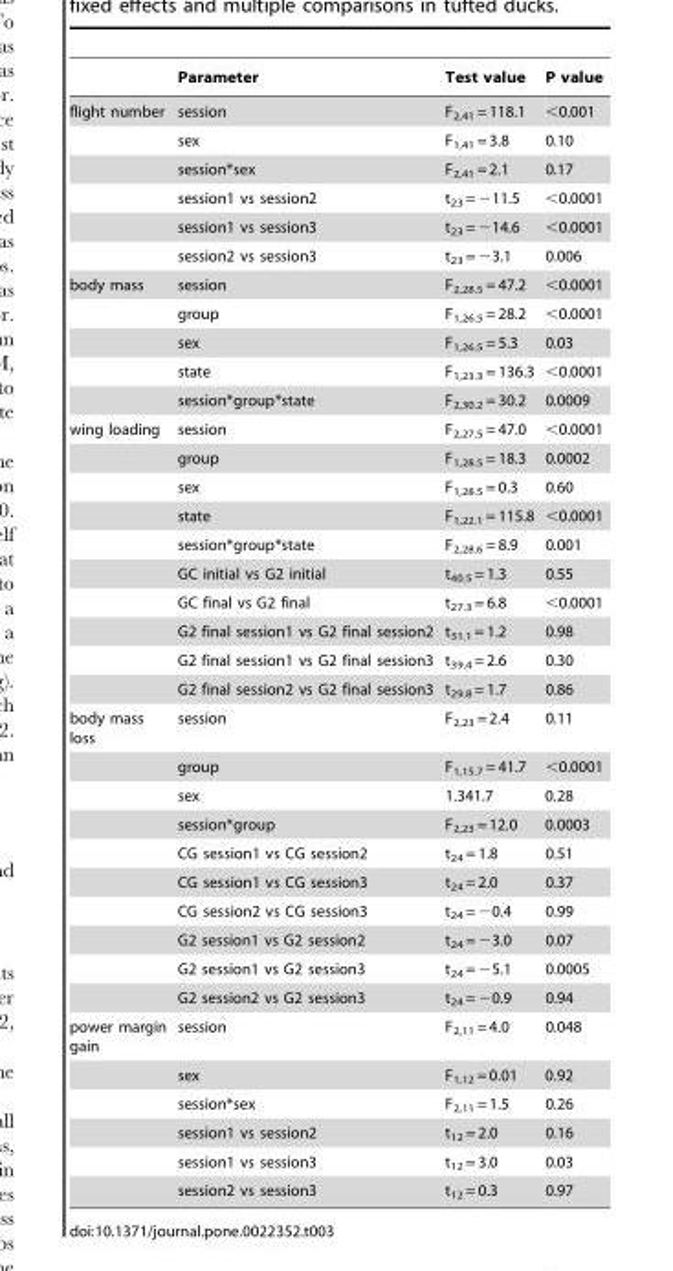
<table><thead><tr><td></td><td>Parameter</td><td>Test value</td><td>P value</td></tr></thead><tbody><tr><td rowspan="6">flight number</td><td>session</td><td>F<sub>2,41</sub> = 118.1</td><td>&lt;0.001</td></tr><tr><td>sex</td><td>F<sub>1,41</sub> = 3.8</td><td>0.10</td></tr><tr><td>session*sex</td><td>F<sub>2,41</sub> = 2.1</td><td>0.17</td></tr><tr><td>session1 vs session2</td><td>t<sub>23</sub> = −11.5</td><td>&lt;0.0001</td></tr><tr><td>session1 vs session3</td><td>t<sub>23</sub> = −14.6</td><td>&lt;0.0001</td></tr><tr><td>session2 vs session3</td><td>t<sub>23</sub> = −3.1</td><td>0.006</td></tr><tr><td rowspan="5">body mass</td><td>session</td><td>F<sub>2,28.5</sub> = 47.2</td><td>&lt;0.0001</td></tr><tr><td>group</td><td>F<sub>1,26.5</sub> = 28.2</td><td>&lt;0.0001</td></tr><tr><td>sex</td><td>F<sub>1,26.5</sub> = 5.3</td><td>0.03</td></tr><tr><td>state</td><td>F<sub>1,23.3</sub> = 136.3</td><td>&lt;0.0001</td></tr><tr><td>session*group*state</td><td>F<sub>2,30.2</sub> = 30.2</td><td>0.0009</td></tr><tr><td rowspan="10">wing loading</td><td>session</td><td>F<sub>2,27.5</sub> = 47.0</td><td>&lt;0.0001</td></tr><tr><td>group</td><td>F<sub>1,28.5</sub> = 18.3</td><td>0.0002</td></tr><tr><td>sex</td><td>F<sub>1,28.5</sub> = 0.3</td><td>0.60</td></tr><tr><td>state</td><td>F<sub>1,22.1</sub> = 115.8</td><td>&lt;0.0001</td></tr><tr><td>session*group*state</td><td>F<sub>2,28.6</sub> = 8.9</td><td>0.001</td></tr><tr><td>GC initial vs G2 initial</td><td>t<sub>40.5</sub> = 1.3</td><td>0.55</td></tr><tr><td>GC final vs G2 final</td><td>t<sub>27.3</sub> = 6.8</td><td>&lt;0.0001</td></tr><tr><td>G2 final session1 vs G2 final session2</td><td>t<sub>31.1</sub> = 1.2</td><td>0.98</td></tr><tr><td>G2 final session1 vs G2 final session3</td><td>t<sub>39.4</sub> = 2.6</td><td>0.30</td></tr><tr><td>G2 final session2 vs G2 final session3</td><td>t<sub>29.8</sub> = 1.7</td><td>0.86</td></tr><tr><td rowspan="10">body mass loss</td><td>session</td><td>F<sub>2,23</sub> = 2.4</td><td>0.11</td></tr><tr><td>group</td><td>F<sub>1,15.7</sub> = 41.7</td><td>&lt;0.0001</td></tr><tr><td>sex</td><td>1.341.7</td><td>0.28</td></tr><tr><td>session*group</td><td>F<sub>2,23</sub> = 12.0</td><td>0.0003</td></tr><tr><td>CG session1 vs CG session2</td><td>t<sub>24</sub> = 1.8</td><td>0.51</td></tr><tr><td>CG session1 vs CG session3</td><td>t<sub>24</sub> = 2.0</td><td>0.37</td></tr><tr><td>CG session2 vs CG session3</td><td>t<sub>24</sub> = −0.4</td><td>0.99</td></tr><tr><td>G2 session1 vs G2 session2</td><td>t<sub>24</sub> = −3.0</td><td>0.07</td></tr><tr><td>G2 session1 vs G2 session3</td><td>t<sub>24</sub> = −5.1</td><td>0.0005</td></tr><tr><td>G2 session2 vs G2 session3</td><td>t<sub>24</sub> = −0.9</td><td>0.94</td></tr><tr><td rowspan="6">power margin gain</td><td>session</td><td>F<sub>2,11</sub> = 4.0</td><td>0.048</td></tr><tr><td>sex</td><td>F<sub>1,12</sub> = 0.01</td><td>0.92</td></tr><tr><td>session*sex</td><td>F<sub>2,11</sub> = 1.5</td><td>0.26</td></tr><tr><td>session1 vs session2</td><td>t<sub>12</sub> = 2.0</td><td>0.16</td></tr><tr><td>session1 vs session3</td><td>t<sub>12</sub> = 3.0</td><td>0.03</td></tr><tr><td>session2 vs session3</td><td>t<sub>12</sub> = 0.3</td><td>0.97</td></tr></tbody></table>